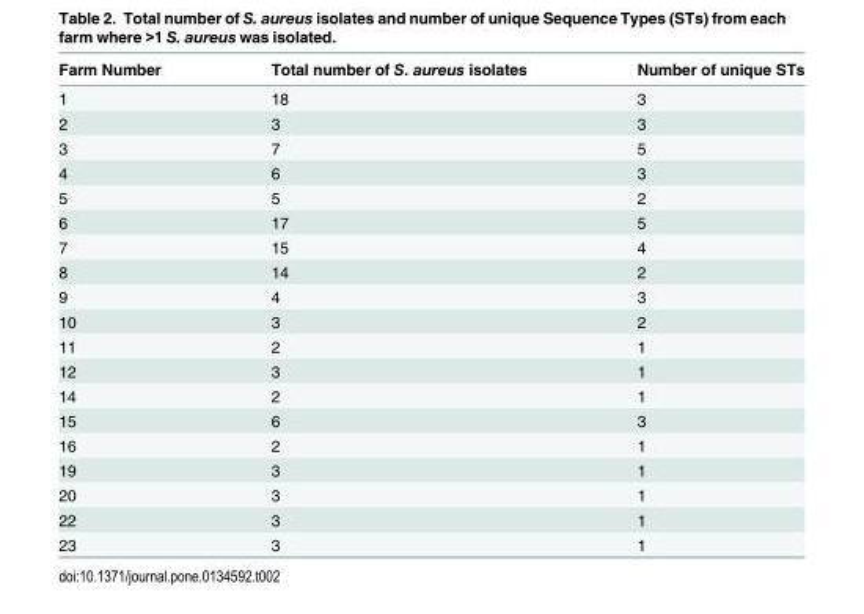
<table><thead><tr><td>Farm Number</td><td>Total number of S. aureus isolates</td><td>Number of unique STs</td></tr></thead><tbody><tr><td>1</td><td>18</td><td>3</td></tr><tr><td>2</td><td>3</td><td>3</td></tr><tr><td>3</td><td>7</td><td>5</td></tr><tr><td>4</td><td>6</td><td>3</td></tr><tr><td>5</td><td>5</td><td>2</td></tr><tr><td>6</td><td>17</td><td>5</td></tr><tr><td>7</td><td>15</td><td>4</td></tr><tr><td>8</td><td>14</td><td>2</td></tr><tr><td>9</td><td>4</td><td>3</td></tr><tr><td>10</td><td>3</td><td>2</td></tr><tr><td>11</td><td>2</td><td>1</td></tr><tr><td>12</td><td>3</td><td>1</td></tr><tr><td>14</td><td>2</td><td>1</td></tr><tr><td>15</td><td>6</td><td>3</td></tr><tr><td>16</td><td>2</td><td>1</td></tr><tr><td>19</td><td>3</td><td>1</td></tr><tr><td>20</td><td>3</td><td>1</td></tr><tr><td>22</td><td>3</td><td>1</td></tr><tr><td>23</td><td>3</td><td>1</td></tr></tbody></table>